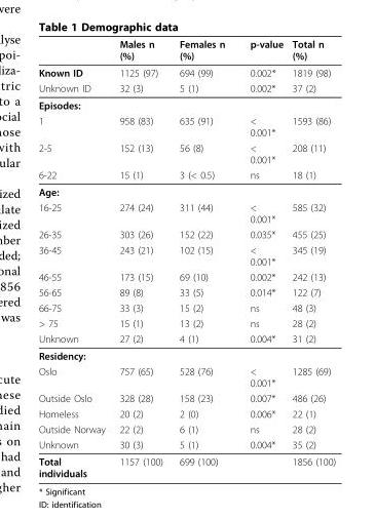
<table><thead><tr><td></td><td>Males n (%)</td><td>Females n (%)</td><td>p-value</td><td>Total n (%)</td></tr></thead><tbody><tr><td>Known ID</td><td>1125 (97)</td><td>694 (99)</td><td>0.002*</td><td>1819 (98)</td></tr><tr><td>Unknown ID</td><td>32 (3)</td><td>5 (1)</td><td>0.002*</td><td>37 (2)</td></tr><tr><td colspan="5">Episodes:</td></tr><tr><td>1</td><td>958 (83)</td><td>635 (91)</td><td>&lt; 0.001*</td><td>1593 (86)</td></tr><tr><td>2-5</td><td>152 (13)</td><td>56 (8)</td><td>&lt; 0.001*</td><td>208 (11)</td></tr><tr><td>6-22</td><td>15 (1)</td><td>3 (&lt; 0.5)</td><td>ns</td><td>18 (1)</td></tr><tr><td colspan="5">Age:</td></tr><tr><td>16-25</td><td>274 (24)</td><td>311 (44)</td><td>&lt; 0.001*</td><td>585 (32)</td></tr><tr><td>26-35</td><td>303 (26)</td><td>152 (22)</td><td>0.035*</td><td>455 (25)</td></tr><tr><td>36-45</td><td>243 (21)</td><td>102 (15)</td><td>&lt; 0.001*</td><td>345 (19)</td></tr><tr><td>46-55</td><td>173 (15)</td><td>69 (10)</td><td>0.002*</td><td>242 (13)</td></tr><tr><td>56-65</td><td>89 (8)</td><td>33 (5)</td><td>0.014*</td><td>122 (7)</td></tr><tr><td>66-75</td><td>33 (3)</td><td>15 (2)</td><td>ns</td><td>48 (3)</td></tr><tr><td>&gt; 75</td><td>15 (1)</td><td>13 (2)</td><td>ns</td><td>28 (2)</td></tr><tr><td>Unknown</td><td>27 (2)</td><td>4 (1)</td><td>0.004*</td><td>31 (2)</td></tr><tr><td colspan="5">Residency:</td></tr><tr><td>Oslo</td><td>757 (65)</td><td>528 (76)</td><td>&lt; 0.001*</td><td>1285 (69)</td></tr><tr><td>Outside Oslo</td><td>328 (28)</td><td>158 (23)</td><td>0.007*</td><td>486 (26)</td></tr><tr><td>Homeless</td><td>20 (2)</td><td>2 (0)</td><td>0.006*</td><td>22 (1)</td></tr><tr><td>Outside Norway</td><td>22 (2)</td><td>6 (1)</td><td>ns</td><td>28 (2)</td></tr><tr><td>Unknown</td><td>30 (3)</td><td>5 (1)</td><td>0.004*</td><td>35 (2)</td></tr><tr><td>Total individuals</td><td>1157 (100)</td><td>699 (100)</td><td></td><td>1856 (100)</td></tr></tbody></table>